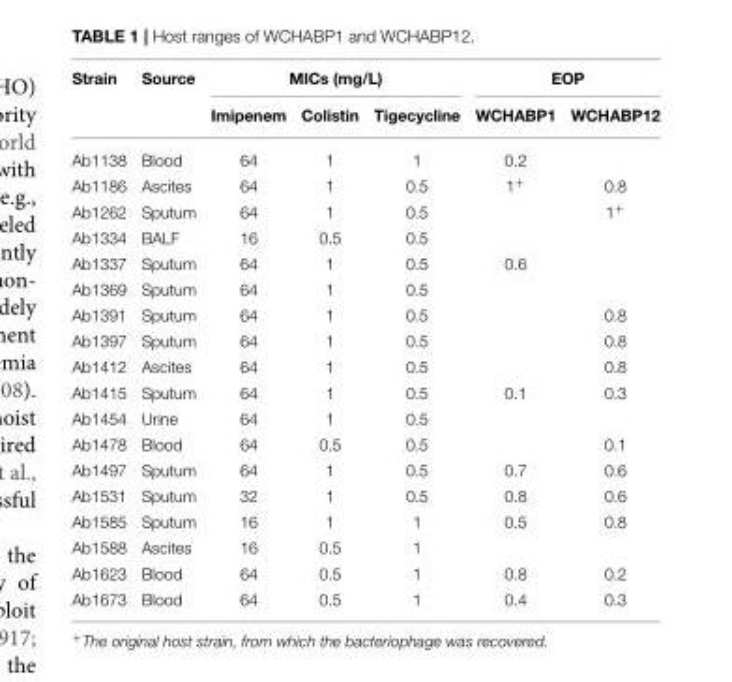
<table><thead><tr><td rowspan="2">Strain</td><td rowspan="2">Source</td><td colspan="3">MICs (mg/L)</td><td colspan="2">EOP</td></tr><tr><td>Imipenem</td><td>Colistin</td><td>Tigecycline</td><td>WCHABP1</td><td>WCHABP12</td></tr></thead><tbody><tr><td>Ab1138</td><td>Blood</td><td>64</td><td>1</td><td>1</td><td>0.2</td><td></td></tr><tr><td>Ab1186</td><td>Ascites</td><td>64</td><td>1</td><td>0.5</td><td>1<sup>+</sup></td><td>0.8</td></tr><tr><td>Ab1262</td><td>Sputum</td><td>64</td><td>1</td><td>0.5</td><td></td><td>1<sup>+</sup></td></tr><tr><td>Ab1334</td><td>BALF</td><td>16</td><td>0.5</td><td>0.5</td><td></td><td></td></tr><tr><td>Ab1337</td><td>Sputum</td><td>64</td><td>1</td><td>0.5</td><td>0.6</td><td></td></tr><tr><td>Ab1369</td><td>Sputum</td><td>64</td><td>1</td><td>0.5</td><td></td><td></td></tr><tr><td>Ab1391</td><td>Sputum</td><td>64</td><td>1</td><td>0.5</td><td></td><td>0.8</td></tr><tr><td>Ab1397</td><td>Sputum</td><td>64</td><td>1</td><td>0.5</td><td></td><td>0.8</td></tr><tr><td>Ab1412</td><td>Ascites</td><td>64</td><td>1</td><td>0.5</td><td></td><td>0.8</td></tr><tr><td>Ab1415</td><td>Sputum</td><td>64</td><td>1</td><td>0.5</td><td>0.1</td><td>0.3</td></tr><tr><td>Ab1454</td><td>Urine</td><td>64</td><td>1</td><td>0.5</td><td></td><td></td></tr><tr><td>Ab1478</td><td>Blood</td><td>64</td><td>0.5</td><td>0.5</td><td></td><td>0.1</td></tr><tr><td>Ab1497</td><td>Sputum</td><td>64</td><td>1</td><td>0.5</td><td>0.7</td><td>0.6</td></tr><tr><td>Ab1531</td><td>Sputum</td><td>32</td><td>1</td><td>0.5</td><td>0.8</td><td>0.6</td></tr><tr><td>Ab1585</td><td>Sputum</td><td>16</td><td>1</td><td>1</td><td>0.5</td><td>0.8</td></tr><tr><td>Ab1588</td><td>Ascites</td><td>16</td><td>0.5</td><td>1</td><td></td><td></td></tr><tr><td>Ab1623</td><td>Blood</td><td>64</td><td>0.5</td><td>1</td><td>0.8</td><td>0.2</td></tr><tr><td>Ab1673</td><td>Blood</td><td>64</td><td>0.5</td><td>1</td><td>0.4</td><td>0.3</td></tr></tbody></table>